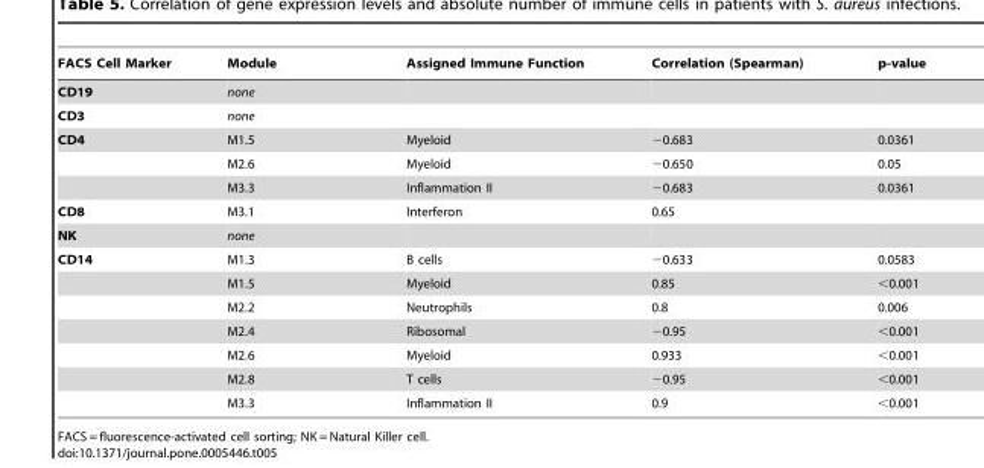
<table><thead><tr><td>FACS Cell Marker</td><td>Module</td><td>Assigned Immune Function</td><td>Correlation (Spearman)</td><td>p-value</td></tr></thead><tbody><tr><td>CD19</td><td>none</td><td></td><td></td><td></td></tr><tr><td>CD3</td><td>none</td><td></td><td></td><td></td></tr><tr><td rowspan="3">CD4</td><td>M1.5</td><td>Myeloid</td><td>−0.683</td><td>0.0361</td></tr><tr><td>M2.6</td><td>Myeloid</td><td>−0.650</td><td>0.05</td></tr><tr><td>M3.3</td><td>Inflammation II</td><td>−0.683</td><td>0.0361</td></tr><tr><td>CD8</td><td>M3.1</td><td>Interferon</td><td>0.65</td><td></td></tr><tr><td>NK</td><td>none</td><td></td><td></td><td></td></tr><tr><td rowspan="7">CD14</td><td>M1.3</td><td>B cells</td><td>−0.633</td><td>0.0583</td></tr><tr><td>M1.5</td><td>Myeloid</td><td>0.85</td><td>&lt;0.001</td></tr><tr><td>M2.2</td><td>Neutrophils</td><td>0.8</td><td>0.006</td></tr><tr><td>M2.4</td><td>Ribosomal</td><td>−0.95</td><td>&lt;0.001</td></tr><tr><td>M2.6</td><td>Myeloid</td><td>0.933</td><td>&lt;0.001</td></tr><tr><td>M2.8</td><td>T cells</td><td>−0.95</td><td>&lt;0.001</td></tr><tr><td>M3.3</td><td>Inflammation II</td><td>0.9</td><td>&lt;0.001</td></tr></tbody></table>